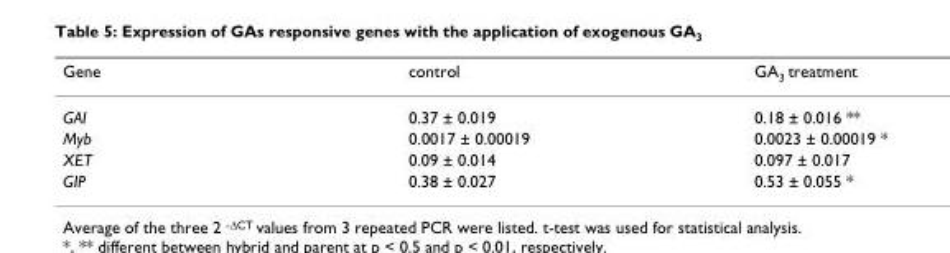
<table><thead><tr><td>Gene</td><td>control</td><td>GA<sub>3</sub> treatment</td></tr></thead><tbody><tr><td>GAI</td><td>0.37 ± 0.019</td><td>0.18 ± 0.016 **</td></tr><tr><td>Myb</td><td>0.0017 ± 0.00019</td><td>0.0023 ± 0.00019 *</td></tr><tr><td>XET</td><td>0.09 ± 0.014</td><td>0.097 ± 0.017</td></tr><tr><td>GIP</td><td>0.38 ± 0.027</td><td>0.53 ± 0.055 *</td></tr></tbody></table>